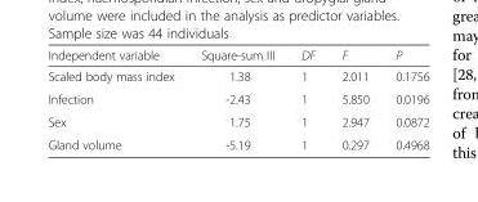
<table><thead><tr><td>Independent variable</td><td>Square-sum III</td><td>DF</td><td>F</td><td>P</td></tr></thead><tbody><tr><td>Scaled body mass index</td><td>1.38</td><td>1</td><td>2.011</td><td>0.1756</td></tr><tr><td>Infection</td><td>-2.43</td><td>1</td><td>5.850</td><td>0.0196</td></tr><tr><td>Sex</td><td>1.75</td><td>1</td><td>2.947</td><td>0.0872</td></tr><tr><td>Gland volume</td><td>-5.19</td><td>1</td><td>0.297</td><td>0.4968</td></tr></tbody></table>